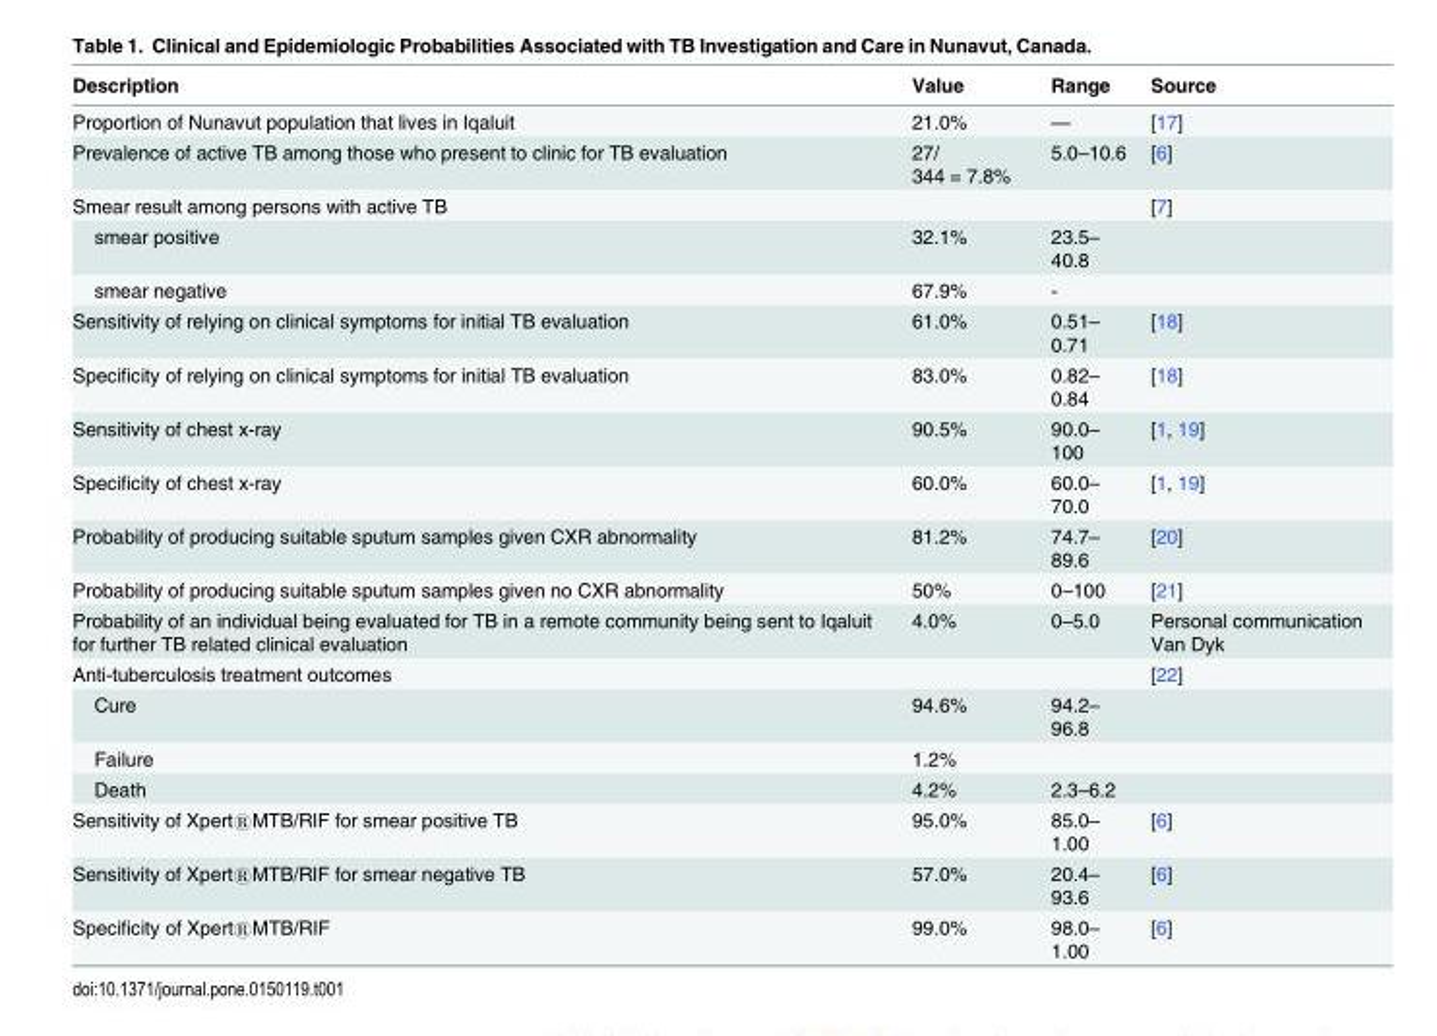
<table><thead><tr><td>Description</td><td>Value</td><td>Range</td><td>Source</td></tr></thead><tbody><tr><td>Proportion of Nunavut population that lives in Iqaluit</td><td>21.0%</td><td>—</td><td>[17]</td></tr><tr><td>Prevalence of active TB among those who present to clinic for TB evaluation</td><td>27/ 344 = 7.8%</td><td>5.0–10.6</td><td>[6]</td></tr><tr><td>Smear result among persons with active TB</td><td></td><td></td><td>[7]</td></tr><tr><td>smear positive</td><td>32.1%</td><td>23.5– 40.8</td><td></td></tr><tr><td>smear negative</td><td>67.9%</td><td>-</td><td></td></tr><tr><td>Sensitivity of relying on clinical symptoms for initial TB evaluation</td><td>61.0%</td><td>0.51– 0.71</td><td>[18]</td></tr><tr><td>Specificity of relying on clinical symptoms for initial TB evaluation</td><td>83.0%</td><td>0.82– 0.84</td><td>[18]</td></tr><tr><td>Sensitivity of chest x-ray</td><td>90.5%</td><td>90.0– 100</td><td>[1, 19]</td></tr><tr><td>Specificity of chest x-ray</td><td>60.0%</td><td>60.0– 70.0</td><td>[1, 19]</td></tr><tr><td>Probability of producing suitable sputum samples given CXR abnormality</td><td>81.2%</td><td>74.7– 89.6</td><td>[20]</td></tr><tr><td>Probability of producing suitable sputum samples given no CXR abnormality</td><td>50%</td><td>0–100</td><td>[21]</td></tr><tr><td>Probability of an individual being evaluated for TB in a remote community being sent to Iqaluit for further TB related clinical evaluation</td><td>4.0%</td><td>0–5.0</td><td>Personal communication Van Dyk</td></tr><tr><td>Anti-tuberculosis treatment outcomes</td><td></td><td></td><td>[22]</td></tr><tr><td>Cure</td><td>94.6%</td><td>94.2– 96.8</td><td></td></tr><tr><td>Failure</td><td>1.2%</td><td></td><td></td></tr><tr><td>Death</td><td>4.2%</td><td>2.3–6.2</td><td></td></tr><tr><td>Sensitivity of Xpert®MTB/RIF for smear positive TB</td><td>95.0%</td><td>85.0– 1.00</td><td>[6]</td></tr><tr><td>Sensitivity of Xpert®MTB/RIF for smear negative TB</td><td>57.0%</td><td>20.4– 93.6</td><td>[6]</td></tr><tr><td>Specificity of Xpert®MTB/RIF</td><td>99.0%</td><td>98.0– 1.00</td><td>[6]</td></tr></tbody></table>